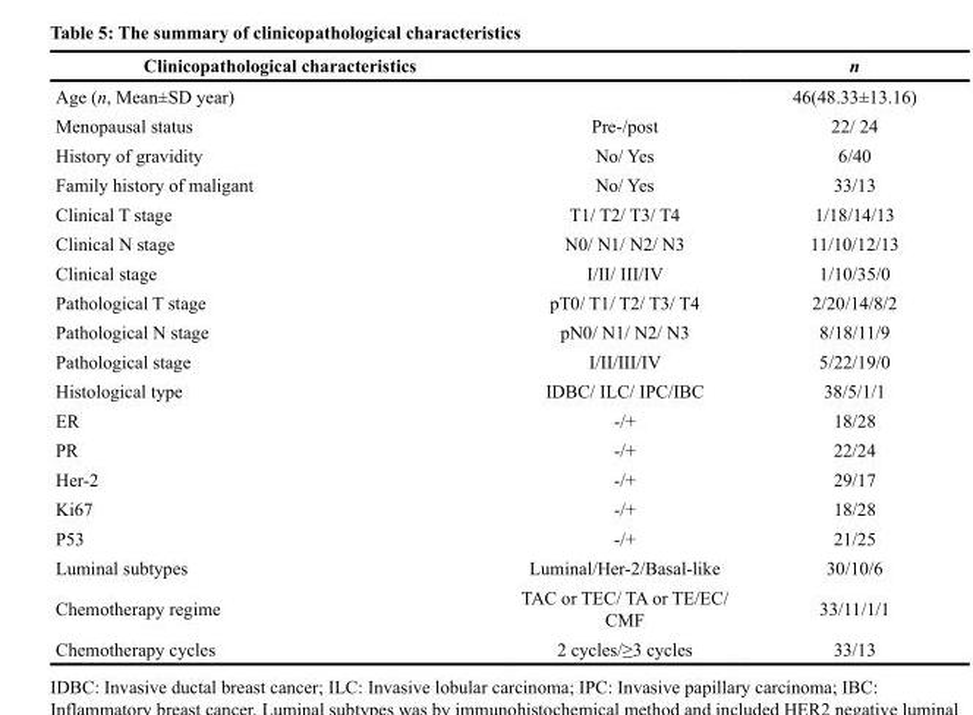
<table><thead><tr><td>Clinicopathological characteristics</td><td></td><td>n</td></tr></thead><tbody><tr><td>Age (n, Mean±SD year)</td><td></td><td>46(48.33±13.16)</td></tr><tr><td>Menopausal status</td><td>Pre-/post</td><td>22/ 24</td></tr><tr><td>History of gravidity</td><td>No/ Yes</td><td>6/40</td></tr><tr><td>Family history of maligant</td><td>No/ Yes</td><td>33/13</td></tr><tr><td>Clinical T stage</td><td>T1/ T2/ T3/ T4</td><td>1/18/14/13</td></tr><tr><td>Clinical N stage</td><td>N0/ N1/ N2/ N3</td><td>11/10/12/13</td></tr><tr><td>Clinical stage</td><td>I/II/ III/IV</td><td>1/10/35/0</td></tr><tr><td>Pathological T stage</td><td>pT0/ T1/ T2/ T3/ T4</td><td>2/20/14/8/2</td></tr><tr><td>Pathological N stage</td><td>pN0/ N1/ N2/ N3</td><td>8/18/11/9</td></tr><tr><td>Pathological stage</td><td>I/II/III/IV</td><td>5/22/19/0</td></tr><tr><td>Histological type</td><td>IDBC/ ILC/ IPC/IBC</td><td>38/5/1/1</td></tr><tr><td>ER</td><td>-/+</td><td>18/28</td></tr><tr><td>PR</td><td>-/+</td><td>22/24</td></tr><tr><td>Her-2</td><td>-/+</td><td>29/17</td></tr><tr><td>Ki67</td><td>-/+</td><td>18/28</td></tr><tr><td>P53</td><td>-/+</td><td>21/25</td></tr><tr><td>Luminal subtypes</td><td>Luminal/Her-2/Basal-like</td><td>30/10/6</td></tr><tr><td>Chemotherapy regime</td><td>TAC or TEC/ TA or TE/EC/ CMF</td><td>33/11/1/1</td></tr><tr><td>Chemotherapy cycles</td><td>2 cycles/≥3 cycles</td><td>33/13</td></tr></tbody></table>